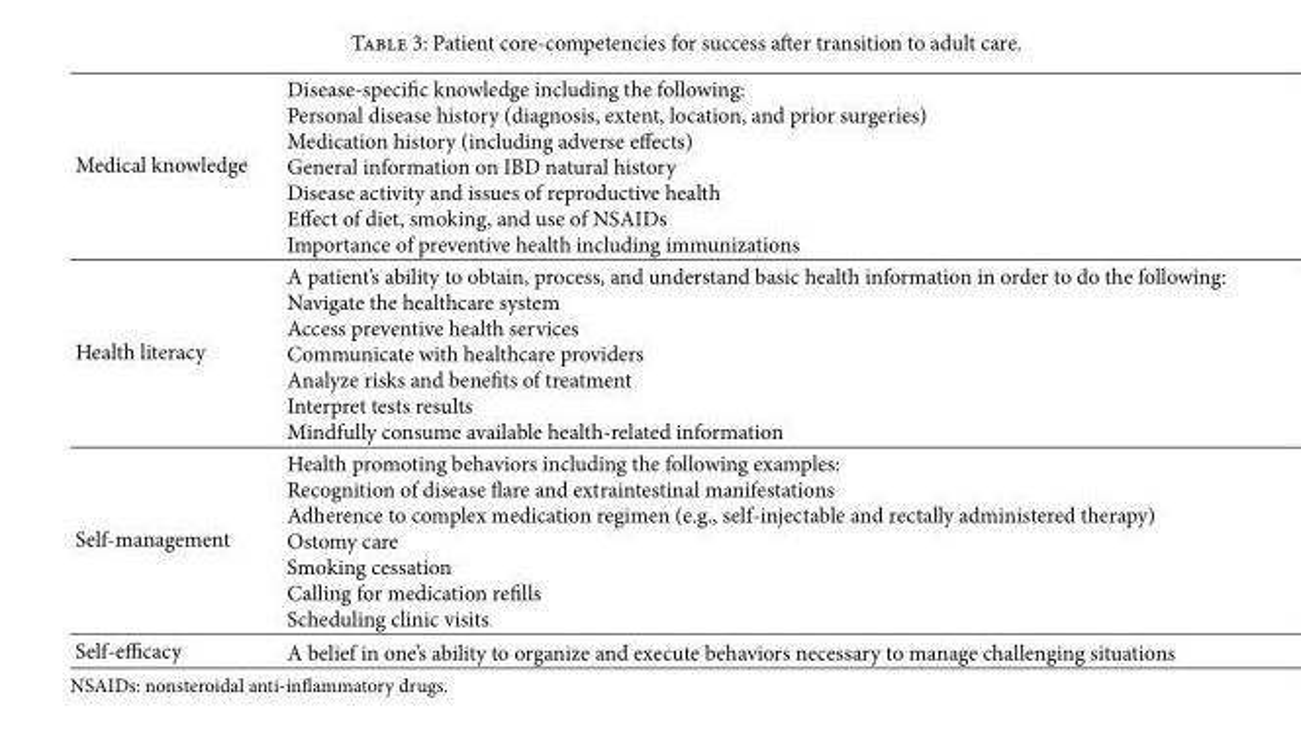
<table><tbody><tr><td>Medical knowledge</td><td>Disease-specific knowledge including the following: Personal disease history (diagnosis, extent, location, and prior surgeries) Medication history (including adverse effects) General information on IBD natural history Disease activity and issues of reproductive health Effect of diet, smoking, and use of NSAIDs Importance of preventive health including immunizations</td></tr><tr><td>Health literacy</td><td>A patient’s ability to obtain, process, and understand basic health information in order to do the following: Navigate the healthcare system Access preventive health services Communicate with healthcare providers Analyze risks and benefits of treatment Interpret tests results Mindfully consume available health-related information</td></tr><tr><td>Self-management</td><td>Health promoting behaviors including the following examples: Recognition of disease flare and extraintestinal manifestations Adherence to complex medication regimen (e.g., self-injectable and rectally administered therapy) Ostomy care Smoking cessation Calling for medication refills Scheduling clinic visits</td></tr><tr><td>Self-efficacy</td><td>A belief in one’s ability to organize and execute behaviors necessary to manage challenging situations</td></tr></tbody></table>